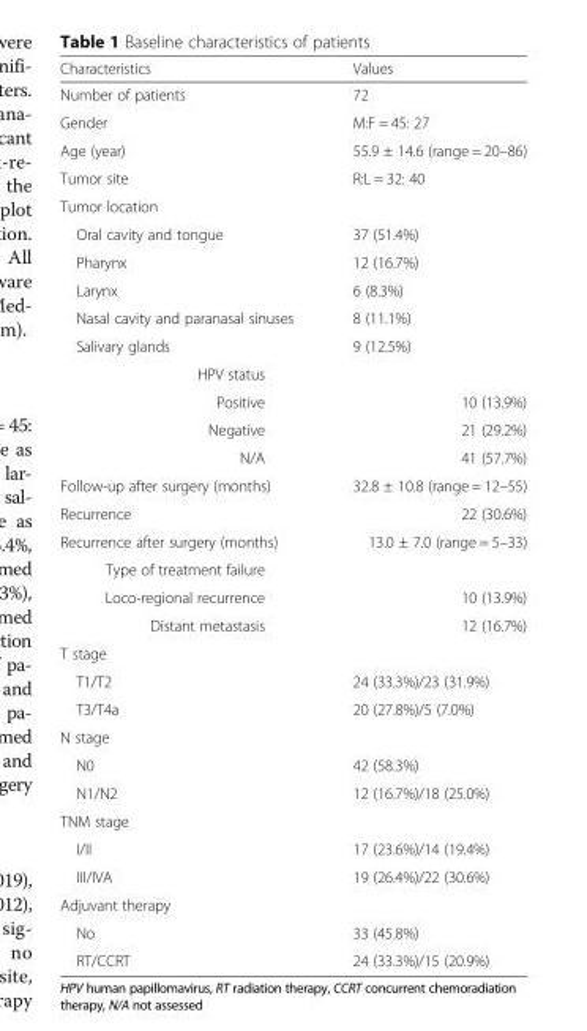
<table><thead><tr><td>Characteristics</td><td>Values</td></tr></thead><tbody><tr><td>Number of patients</td><td>72</td></tr><tr><td>Gender</td><td>M:F = 45: 27</td></tr><tr><td>Age (year)</td><td>55.9 ± 14.6 (range = 20–86)</td></tr><tr><td>Tumor site</td><td>R:L = 32: 40</td></tr><tr><td colspan="2">Tumor location</td></tr><tr><td>Oral cavity and tongue</td><td>37 (51.4%)</td></tr><tr><td>Pharynx</td><td>12 (16.7%)</td></tr><tr><td>Larynx</td><td>6 (8.3%)</td></tr><tr><td>Nasal cavity and paranasal sinuses</td><td>8 (11.1%)</td></tr><tr><td>Salivary glands</td><td>9 (12.5%)</td></tr><tr><td colspan="2">HPV status</td></tr><tr><td>Positive</td><td>10 (13.9%)</td></tr><tr><td>Negative</td><td>21 (29.2%)</td></tr><tr><td>N/A</td><td>41 (57.7%)</td></tr><tr><td>Follow-up after surgery (months)</td><td>32.8 ± 10.8 (range = 12–55)</td></tr><tr><td>Recurrence</td><td>22 (30.6%)</td></tr><tr><td>Recurrence after surgery (months)</td><td>13.0 ± 7.0 (range = 5–33)</td></tr><tr><td colspan="2">Type of treatment failure</td></tr><tr><td>Loco-regional recurrence</td><td>10 (13.9%)</td></tr><tr><td>Distant metastasis</td><td>12 (16.7%)</td></tr><tr><td colspan="2">T stage</td></tr><tr><td>T1/T2</td><td>24 (33.3%)/23 (31.9%)</td></tr><tr><td>T3/T4a</td><td>20 (27.8%)/5 (7.0%)</td></tr><tr><td colspan="2">N stage</td></tr><tr><td>N0</td><td>42 (58.3%)</td></tr><tr><td>N1/N2</td><td>12 (16.7%)/18 (25.0%)</td></tr><tr><td colspan="2">TNM stage</td></tr><tr><td>I/II</td><td>17 (23.6%)/14 (19.4%)</td></tr><tr><td>III/IVA</td><td>19 (26.4%)/22 (30.6%)</td></tr><tr><td colspan="2">Adjuvant therapy</td></tr><tr><td>No</td><td>33 (45.8%)</td></tr><tr><td>RT/CCRT</td><td>24 (33.3%)/15 (20.9%)</td></tr></tbody></table>